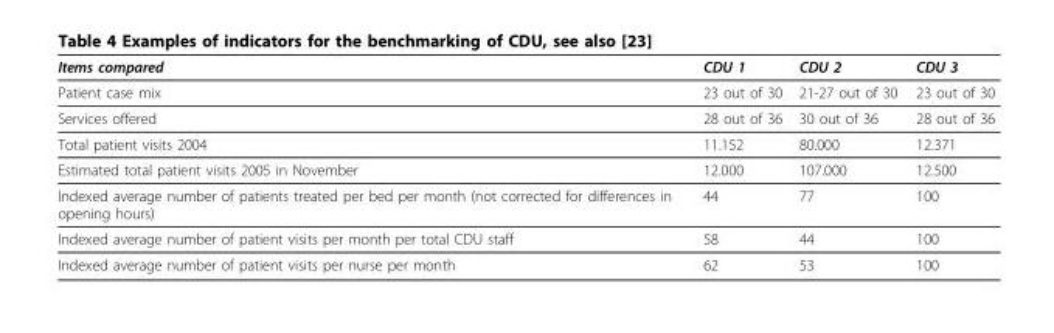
<table><thead><tr><td>Items compared</td><td>CDU 1</td><td>CDU 2</td><td>CDU 3</td></tr></thead><tbody><tr><td>Patient case mix</td><td>23 out of 30</td><td>21-27 out of 30</td><td>23 out of 30</td></tr><tr><td>Services offered</td><td>28 out of 36</td><td>30 out of 36</td><td>28 out of 36</td></tr><tr><td>Total patient visits 2004</td><td>11.152</td><td>80.000</td><td>12.371</td></tr><tr><td>Estimated total patient visits 2005 in November</td><td>12.000</td><td>107.000</td><td>12.500</td></tr><tr><td>Indexed average number of patients treated per bed per month (not corrected for differences in opening hours)</td><td>44</td><td>77</td><td>100</td></tr><tr><td>Indexed average number of patient visits per month per total CDU staff</td><td>58</td><td>44</td><td>100</td></tr><tr><td>Indexed average number of patient visits per nurse per month</td><td>62</td><td>53</td><td>100</td></tr></tbody></table>